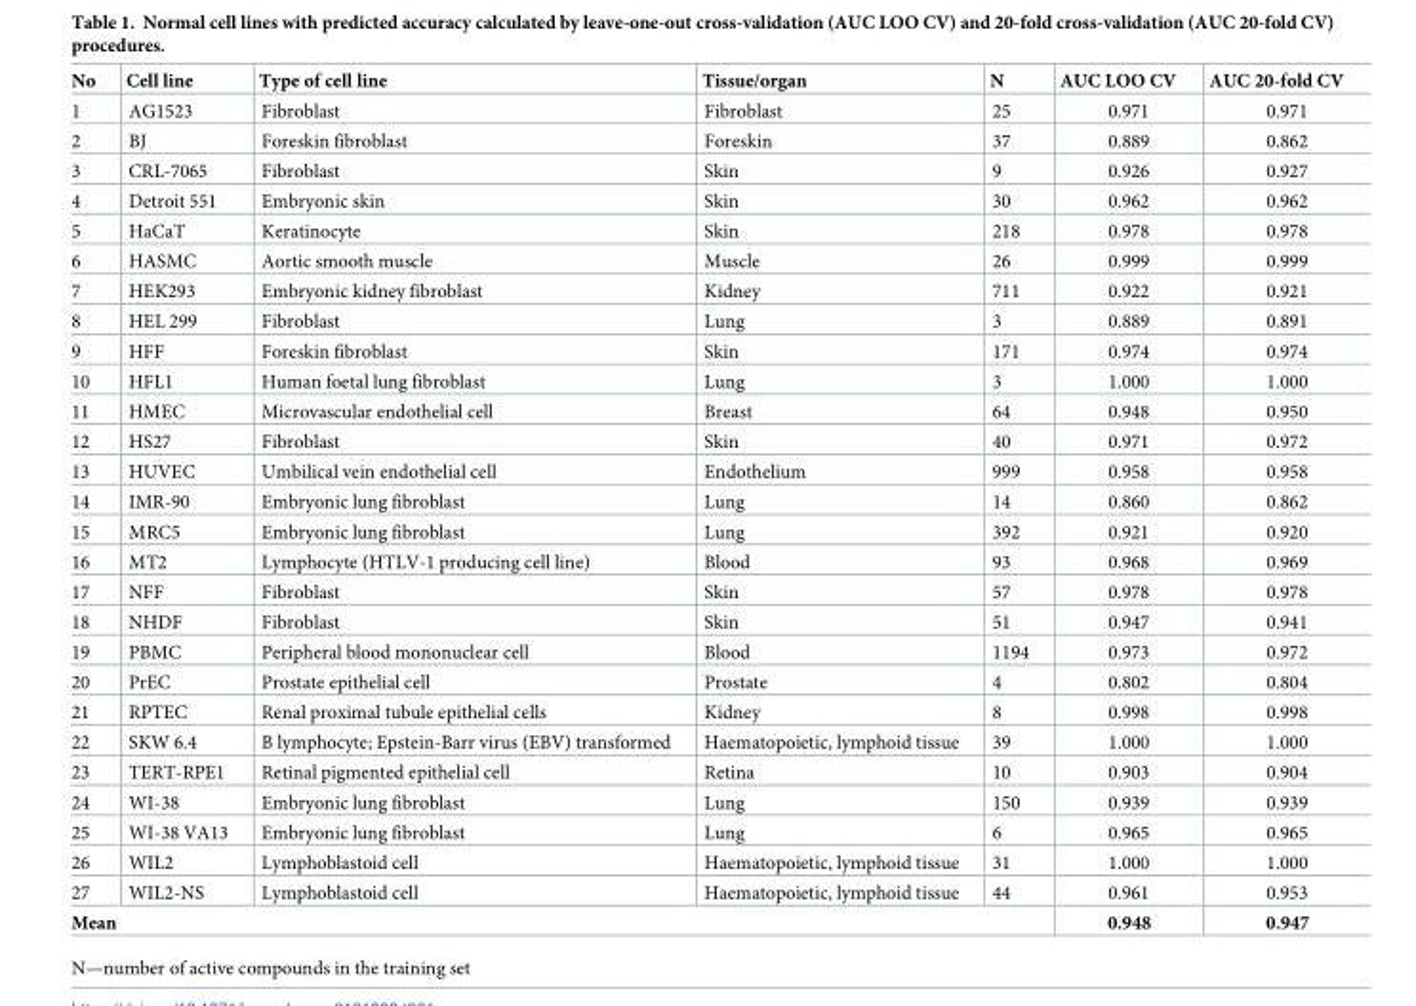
<table><thead><tr><td>No</td><td>Cell line</td><td>Type of cell line</td><td>Tissue/organ</td><td>N</td><td>AUC LOO CV</td><td>AUC 20-fold CV</td></tr></thead><tbody><tr><td>1</td><td>AG1523</td><td>Fibroblast</td><td>Fibroblast</td><td>25</td><td>0.971</td><td>0.971</td></tr><tr><td>2</td><td>BJ</td><td>Foreskin fibroblast</td><td>Foreskin</td><td>37</td><td>0.889</td><td>0.862</td></tr><tr><td>3</td><td>CRL-7065</td><td>Fibroblast</td><td>Skin</td><td>9</td><td>0.926</td><td>0.927</td></tr><tr><td>4</td><td>Detroit 551</td><td>Embryonic skin</td><td>Skin</td><td>30</td><td>0.962</td><td>0.962</td></tr><tr><td>5</td><td>HaCaT</td><td>Keratinocyte</td><td>Skin</td><td>218</td><td>0.978</td><td>0.978</td></tr><tr><td>6</td><td>HASMC</td><td>Aortic smooth muscle</td><td>Muscle</td><td>26</td><td>0.999</td><td>0.999</td></tr><tr><td>7</td><td>HEK293</td><td>Embryonic kidney fibroblast</td><td>Kidney</td><td>711</td><td>0.922</td><td>0.921</td></tr><tr><td>8</td><td>HEL 299</td><td>Fibroblast</td><td>Lung</td><td>3</td><td>0.889</td><td>0.891</td></tr><tr><td>9</td><td>HFF</td><td>Foreskin fibroblast</td><td>Skin</td><td>171</td><td>0.974</td><td>0.974</td></tr><tr><td>10</td><td>HFL1</td><td>Human foetal lung fibroblast</td><td>Lung</td><td>3</td><td>1.000</td><td>1.000</td></tr><tr><td>11</td><td>HMEC</td><td>Microvascular endothelial cell</td><td>Breast</td><td>64</td><td>0.948</td><td>0.950</td></tr><tr><td>12</td><td>HS27</td><td>Fibroblast</td><td>Skin</td><td>40</td><td>0.971</td><td>0.972</td></tr><tr><td>13</td><td>HUVEC</td><td>Umbilical vein endothelial cell</td><td>Endothelium</td><td>999</td><td>0.958</td><td>0.958</td></tr><tr><td>14</td><td>IMR-90</td><td>Embryonic lung fibroblast</td><td>Lung</td><td>14</td><td>0.860</td><td>0.862</td></tr><tr><td>15</td><td>MRC5</td><td>Embryonic lung fibroblast</td><td>Lung</td><td>392</td><td>0.921</td><td>0.920</td></tr><tr><td>16</td><td>MT2</td><td>Lymphocyte (HTLV-1 producing cell line)</td><td>Blood</td><td>93</td><td>0.968</td><td>0.969</td></tr><tr><td>17</td><td>NFF</td><td>Fibroblast</td><td>Skin</td><td>57</td><td>0.978</td><td>0.978</td></tr><tr><td>18</td><td>NHDF</td><td>Fibroblast</td><td>Skin</td><td>51</td><td>0.947</td><td>0.941</td></tr><tr><td>19</td><td>PBMC</td><td>Peripheral blood mononuclear cell</td><td>Blood</td><td>1194</td><td>0.973</td><td>0.972</td></tr><tr><td>20</td><td>PrEC</td><td>Prostate epithelial cell</td><td>Prostate</td><td>4</td><td>0.802</td><td>0.804</td></tr><tr><td>21</td><td>RPTEC</td><td>Renal proximal tubule epithelial cells</td><td>Kidney</td><td>8</td><td>0.998</td><td>0.998</td></tr><tr><td>22</td><td>SKW 6.4</td><td>B lymphocyte; Epstein-Barr virus (EBV) transformed</td><td>Haematopoietic, lymphoid tissue</td><td>39</td><td>1.000</td><td>1.000</td></tr><tr><td>23</td><td>TERT-RPE1</td><td>Retinal pigmented epithelial cell</td><td>Retina</td><td>10</td><td>0.903</td><td>0.904</td></tr><tr><td>24</td><td>WI-38</td><td>Embryonic lung fibroblast</td><td>Lung</td><td>150</td><td>0.939</td><td>0.939</td></tr><tr><td>25</td><td>WI-38 VA13</td><td>Embryonic lung fibroblast</td><td>Lung</td><td>6</td><td>0.965</td><td>0.965</td></tr><tr><td>26</td><td>WIL2</td><td>Lymphoblastoid cell</td><td>Haematopoietic, lymphoid tissue</td><td>31</td><td>1.000</td><td>1.000</td></tr><tr><td>27</td><td>WIL2-NS</td><td>Lymphoblastoid cell</td><td>Haematopoietic, lymphoid tissue</td><td>44</td><td>0.961</td><td>0.953</td></tr><tr><td colspan="5">Mean</td><td>0.948</td><td>0.947</td></tr></tbody></table>